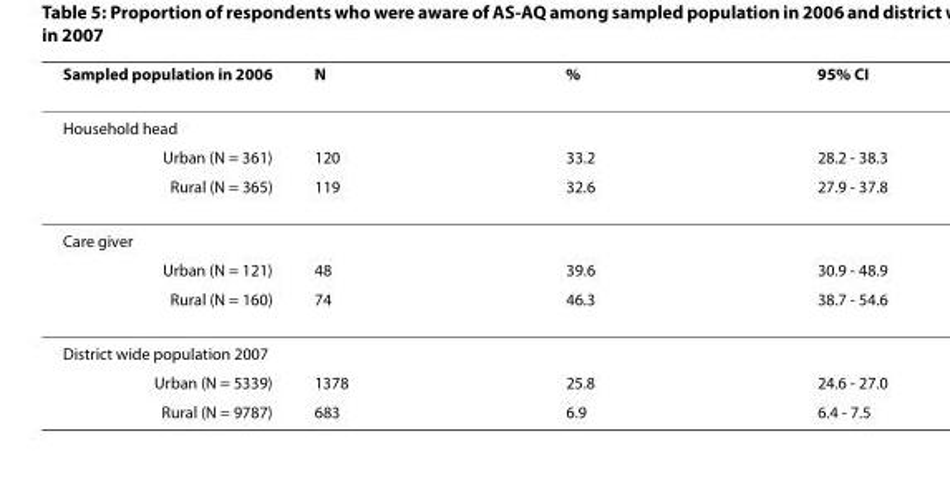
<table><thead><tr><td>Sampled population in 2006</td><td>N</td><td>%</td><td>95% CI</td></tr></thead><tbody><tr><td colspan="4">Household head</td></tr><tr><td>Urban (N = 361)</td><td>120</td><td>33.2</td><td>28.2 - 38.3</td></tr><tr><td>Rural (N = 365)</td><td>119</td><td>32.6</td><td>27.9 - 37.8</td></tr><tr><td colspan="4">Care giver</td></tr><tr><td>Urban (N = 121)</td><td>48</td><td>39.6</td><td>30.9 - 48.9</td></tr><tr><td>Rural (N = 160)</td><td>74</td><td>46.3</td><td>38.7 - 54.6</td></tr><tr><td colspan="4">District wide population 2007</td></tr><tr><td>Urban (N = 5339)</td><td>1378</td><td>25.8</td><td>24.6 - 27.0</td></tr><tr><td>Rural (N = 9787)</td><td>683</td><td>6.9</td><td>6.4 - 7.5</td></tr></tbody></table>